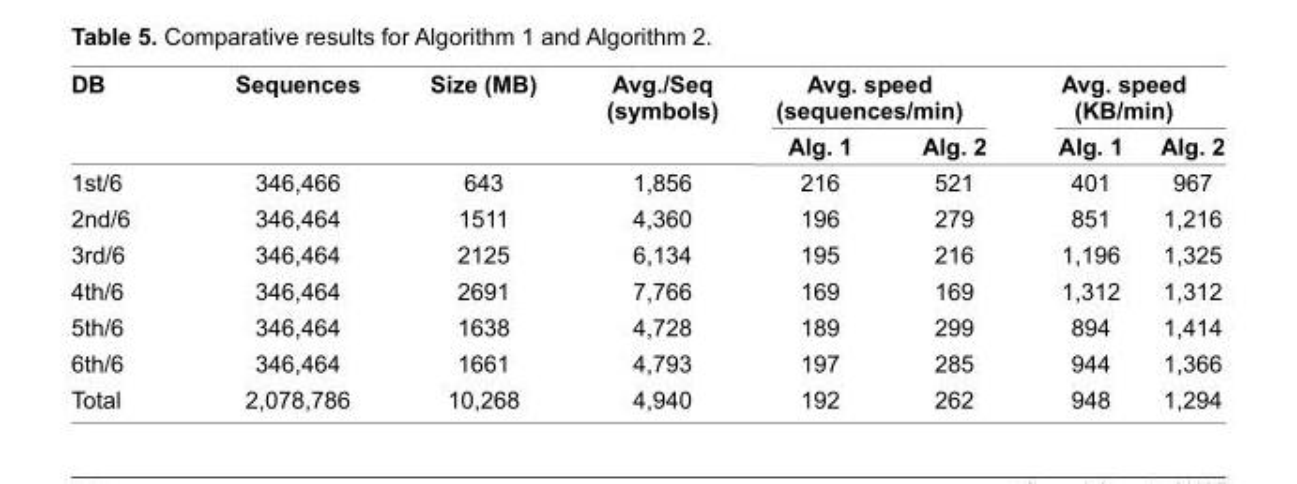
<table><thead><tr><td rowspan="2">DB</td><td rowspan="2">Sequences</td><td rowspan="2">Size (MB)</td><td rowspan="2">Avg./Seq (symbols)</td><td colspan="2">Avg. speed (sequences/min)</td><td colspan="2">Avg. speed (KB/min)</td></tr><tr><td>Alg. 1</td><td>Alg. 2</td><td>Alg. 1</td><td>Alg. 2</td></tr></thead><tbody><tr><td>1st/6</td><td>346,466</td><td>643</td><td>1,856</td><td>216</td><td>521</td><td>401</td><td>967</td></tr><tr><td>2nd/6</td><td>346,464</td><td>1511</td><td>4,360</td><td>196</td><td>279</td><td>851</td><td>1,216</td></tr><tr><td>3rd/6</td><td>346,464</td><td>2125</td><td>6,134</td><td>195</td><td>216</td><td>1,196</td><td>1,325</td></tr><tr><td>4th/6</td><td>346,464</td><td>2691</td><td>7,766</td><td>169</td><td>169</td><td>1,312</td><td>1,312</td></tr><tr><td>5th/6</td><td>346,464</td><td>1638</td><td>4,728</td><td>189</td><td>299</td><td>894</td><td>1,414</td></tr><tr><td>6th/6</td><td>346,464</td><td>1661</td><td>4,793</td><td>197</td><td>285</td><td>944</td><td>1,366</td></tr><tr><td>Total</td><td>2,078,786</td><td>10,268</td><td>4,940</td><td>192</td><td>262</td><td>948</td><td>1,294</td></tr></tbody></table>